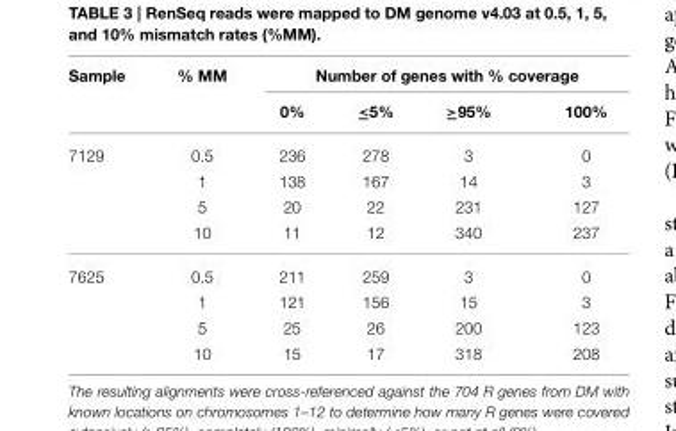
<table><thead><tr><td rowspan="2">Sample</td><td rowspan="2">% MM</td><td colspan="4">Number of genes with % coverage</td></tr><tr><td>0%</td><td>≤5%</td><td>≥95%</td><td>100%</td></tr></thead><tbody><tr><td rowspan="4">7129</td><td>0.5</td><td>236</td><td>278</td><td>3</td><td>0</td></tr><tr><td>1</td><td>138</td><td>167</td><td>14</td><td>3</td></tr><tr><td>5</td><td>20</td><td>22</td><td>231</td><td>127</td></tr><tr><td>10</td><td>11</td><td>12</td><td>340</td><td>237</td></tr><tr><td rowspan="4">7625</td><td>0.5</td><td>211</td><td>259</td><td>3</td><td>0</td></tr><tr><td>1</td><td>121</td><td>156</td><td>15</td><td>3</td></tr><tr><td>5</td><td>25</td><td>26</td><td>200</td><td>123</td></tr><tr><td>10</td><td>15</td><td>17</td><td>318</td><td>208</td></tr></tbody></table>